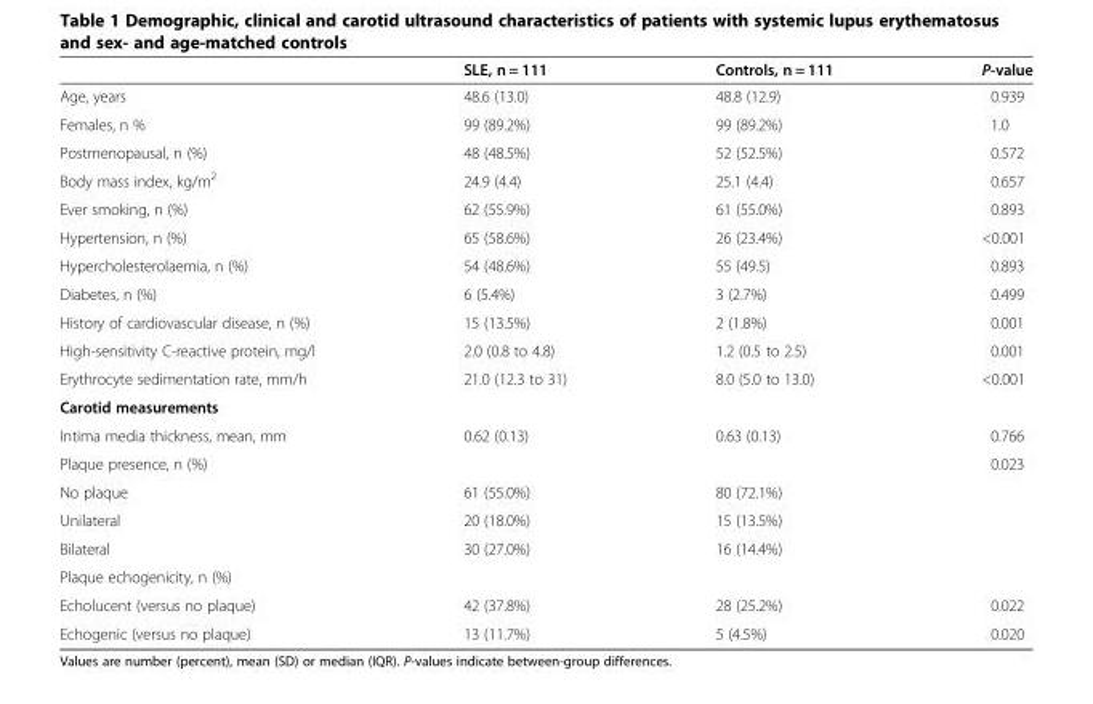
<table><thead><tr><td></td><td>SLE, n = 111</td><td>Controls, n = 111</td><td>P-value</td></tr></thead><tbody><tr><td>Age, years</td><td>48.6 (13.0)</td><td>48.8 (12.9)</td><td>0.939</td></tr><tr><td>Females, n %</td><td>99 (89.2%)</td><td>99 (89.2%)</td><td>1.0</td></tr><tr><td>Postmenopausal, n (%)</td><td>48 (48.5%)</td><td>52 (52.5%)</td><td>0.572</td></tr><tr><td>Body mass index, kg/m<sup>2</sup></td><td>24.9 (4.4)</td><td>25.1 (4.4)</td><td>0.657</td></tr><tr><td>Ever smoking, n (%)</td><td>62 (55.9%)</td><td>61 (55.0%)</td><td>0.893</td></tr><tr><td>Hypertension, n (%)</td><td>65 (58.6%)</td><td>26 (23.4%)</td><td>&lt;0.001</td></tr><tr><td>Hypercholesterolaemia, n (%)</td><td>54 (48.6%)</td><td>55 (49.5)</td><td>0.893</td></tr><tr><td>Diabetes, n (%)</td><td>6 (5.4%)</td><td>3 (2.7%)</td><td>0.499</td></tr><tr><td>History of cardiovascular disease, n (%)</td><td>15 (13.5%)</td><td>2 (1.8%)</td><td>0.001</td></tr><tr><td>High-sensitivity C-reactive protein, mg/l</td><td>2.0 (0.8 to 4.8)</td><td>1.2 (0.5 to 2.5)</td><td>0.001</td></tr><tr><td>Erythrocyte sedimentation rate, mm/h</td><td>21.0 (12.3 to 31)</td><td>8.0 (5.0 to 13.0)</td><td>&lt;0.001</td></tr><tr><td colspan="4">Carotid measurements</td></tr><tr><td>Intima media thickness, mean, mm</td><td>0.62 (0.13)</td><td>0.63 (0.13)</td><td>0.766</td></tr><tr><td>Plaque presence, n (%)</td><td></td><td></td><td>0.023</td></tr><tr><td>No plaque</td><td>61 (55.0%)</td><td>80 (72.1%)</td><td></td></tr><tr><td>Unilateral</td><td>20 (18.0%)</td><td>15 (13.5%)</td><td></td></tr><tr><td>Bilateral</td><td>30 (27.0%)</td><td>16 (14.4%)</td><td></td></tr><tr><td colspan="4">Plaque echogenicity, n (%)</td></tr><tr><td>Echolucent (versus no plaque)</td><td>42 (37.8%)</td><td>28 (25.2%)</td><td>0.022</td></tr><tr><td>Echogenic (versus no plaque)</td><td>13 (11.7%)</td><td>5 (4.5%)</td><td>0.020</td></tr></tbody></table>